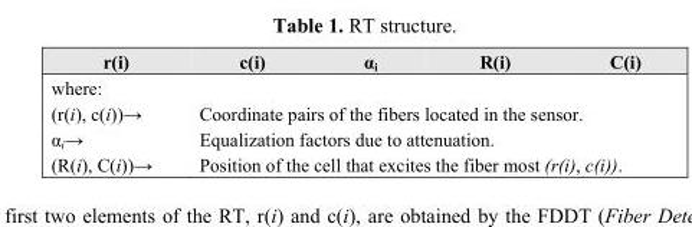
<table><thead><tr><td>r(i)</td><td>c(i)</td><td>α<sub>i</sub></td><td>R(i)</td><td>C(i)</td></tr></thead><tbody><tr><td colspan="5">where:</td></tr><tr><td>(r(i), c(i))→</td><td colspan="4">Coordinate pairs of the fibers located in the sensor.</td></tr><tr><td>α<sub>i</sub>→</td><td colspan="4">Equalization factors due to attenuation.</td></tr><tr><td>(R(i), C(i))→</td><td colspan="4">Position of the cell that excites the fiber most (r(i), c(i)).</td></tr></tbody></table>